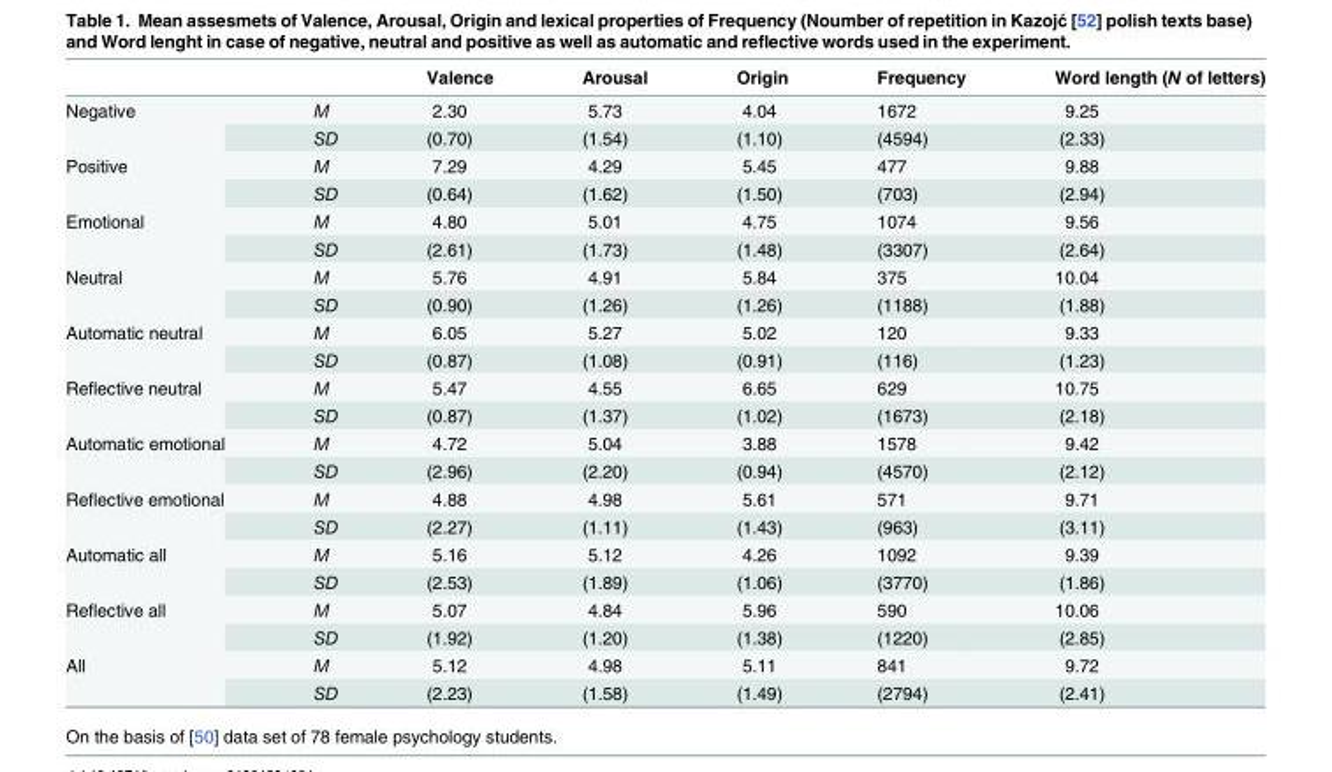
<table><thead><tr><td></td><td></td><td>Valence</td><td>Arousal</td><td>Origin</td><td>Frequency</td><td>Word length (N of letters)</td></tr></thead><tbody><tr><td rowspan="2">Negative</td><td>M</td><td>2.30</td><td>5.73</td><td>4.04</td><td>1672</td><td>9.25</td></tr><tr><td>SD</td><td>(0.70)</td><td>(1.54)</td><td>(1.10)</td><td>(4594)</td><td>(2.33)</td></tr><tr><td rowspan="2">Positive</td><td>M</td><td>7.29</td><td>4.29</td><td>5.45</td><td>477</td><td>9.88</td></tr><tr><td>SD</td><td>(0.64)</td><td>(1.62)</td><td>(1.50)</td><td>(703)</td><td>(2.94)</td></tr><tr><td rowspan="2">Emotional</td><td>M</td><td>4.80</td><td>5.01</td><td>4.75</td><td>1074</td><td>9.56</td></tr><tr><td>SD</td><td>(2.61)</td><td>(1.73)</td><td>(1.48)</td><td>(3307)</td><td>(2.64)</td></tr><tr><td rowspan="2">Neutral</td><td>M</td><td>5.76</td><td>4.91</td><td>5.84</td><td>375</td><td>10.04</td></tr><tr><td>SD</td><td>(0.90)</td><td>(1.26)</td><td>(1.26)</td><td>(1188)</td><td>(1.88)</td></tr><tr><td rowspan="2">Automatic neutral</td><td>M</td><td>6.05</td><td>5.27</td><td>5.02</td><td>120</td><td>9.33</td></tr><tr><td>SD</td><td>(0.87)</td><td>(1.08)</td><td>(0.91)</td><td>(116)</td><td>(1.23)</td></tr><tr><td rowspan="2">Reflective neutral</td><td>M</td><td>5.47</td><td>4.55</td><td>6.65</td><td>629</td><td>10.75</td></tr><tr><td>SD</td><td>(0.87)</td><td>(1.37)</td><td>(1.02)</td><td>(1673)</td><td>(2.18)</td></tr><tr><td rowspan="2">Automatic emotional</td><td>M</td><td>4.72</td><td>5.04</td><td>3.88</td><td>1578</td><td>9.42</td></tr><tr><td>SD</td><td>(2.96)</td><td>(2.20)</td><td>(0.94)</td><td>(4570)</td><td>(2.12)</td></tr><tr><td rowspan="2">Reflective emotional</td><td>M</td><td>4.88</td><td>4.98</td><td>5.61</td><td>571</td><td>9.71</td></tr><tr><td>SD</td><td>(2.27)</td><td>(1.11)</td><td>(1.43)</td><td>(963)</td><td>(3.11)</td></tr><tr><td rowspan="2">Automatic all</td><td>M</td><td>5.16</td><td>5.12</td><td>4.26</td><td>1092</td><td>9.39</td></tr><tr><td>SD</td><td>(2.53)</td><td>(1.89)</td><td>(1.06)</td><td>(3770)</td><td>(1.86)</td></tr><tr><td rowspan="2">Reflective all</td><td>M</td><td>5.07</td><td>4.84</td><td>5.96</td><td>590</td><td>10.06</td></tr><tr><td>SD</td><td>(1.92)</td><td>(1.20)</td><td>(1.38)</td><td>(1220)</td><td>(2.85)</td></tr><tr><td rowspan="2">All</td><td>M</td><td>5.12</td><td>4.98</td><td>5.11</td><td>841</td><td>9.72</td></tr><tr><td>SD</td><td>(2.23)</td><td>(1.58)</td><td>(1.49)</td><td>(2794)</td><td>(2.41)</td></tr></tbody></table>